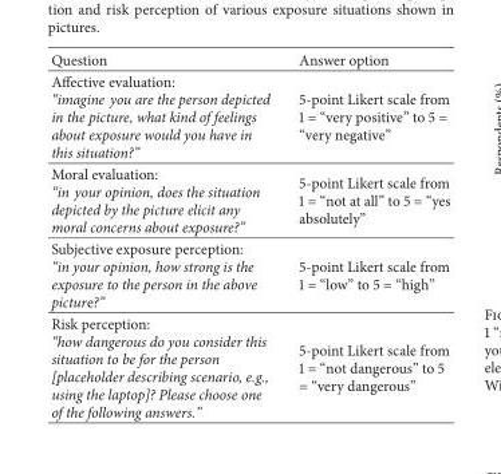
<table><thead><tr><td>Question</td><td>Answer option</td></tr></thead><tbody><tr><td>Affective evaluation: “imagine you are the person depicted in the picture, what kind of feelings about exposure would you have in this situation?”</td><td>5-point Likert scale from 1 = “very positive” to 5 = “very negative”</td></tr><tr><td>Moral evaluation: “in your opinion, does the situation depicted by the picture elicit any moral concerns about exposure?”</td><td>5-point Likert scale from 1 = “not at all” to 5 = “yes absolutely”</td></tr><tr><td>Subjective exposure perception: “in your opinion, how strong is the exposure to the person in the above picture?”</td><td>5-point Likert scale from 1 = “low” to 5 = “high”</td></tr><tr><td>Risk perception: “how dangerous do you consider this situation to be for the person [placeholder describing scenario, e.g., using the laptop]? Please choose one of the following answers.”</td><td>5-point Likert scale from 1 = “not dangerous” to 5 = “very dangerous”</td></tr></tbody></table>